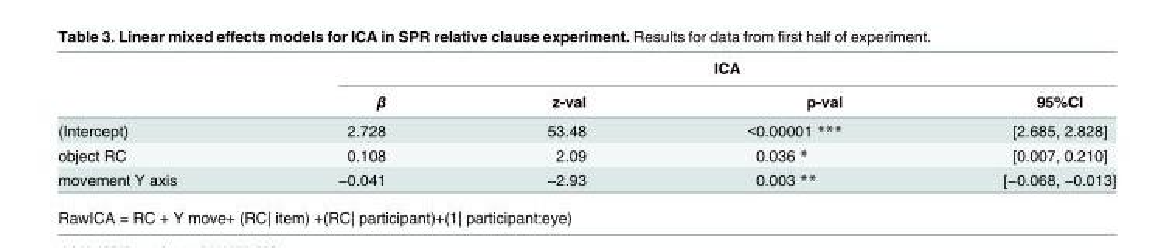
<table><thead><tr><td rowspan="2"></td><td colspan="4">ICA</td></tr><tr><td>β</td><td>z-val</td><td>p-val</td><td>95%CI</td></tr></thead><tbody><tr><td>(Intercept)</td><td>2.728</td><td>53.48</td><td>&lt;0.00001 ***</td><td>[2.685, 2.828]</td></tr><tr><td>object RC</td><td>0.108</td><td>2.09</td><td>0.036 *</td><td>[0.007, 0.210]</td></tr><tr><td>movement Y axis</td><td>−0.041</td><td>−2.93</td><td>0.003 **</td><td>[−0.068, −0.013]</td></tr></tbody></table>